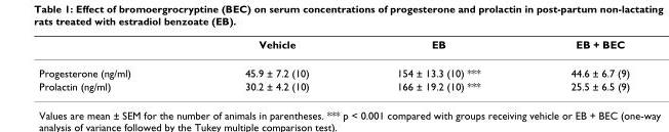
<table><thead><tr><td></td><td>Vehicle</td><td>EB</td><td>EB + BEC</td></tr></thead><tbody><tr><td>Progesterone (ng/ml)</td><td>45.9 ± 7.2 (10)</td><td>154 ± 13.3 (10) ***</td><td>44.6 ± 6.7 (9)</td></tr><tr><td>Prolactin (ng/ml)</td><td>30.2 ± 4.2 (10)</td><td>166 ± 19.2 (10) ***</td><td>25.5 ± 6.5 (9)</td></tr></tbody></table>